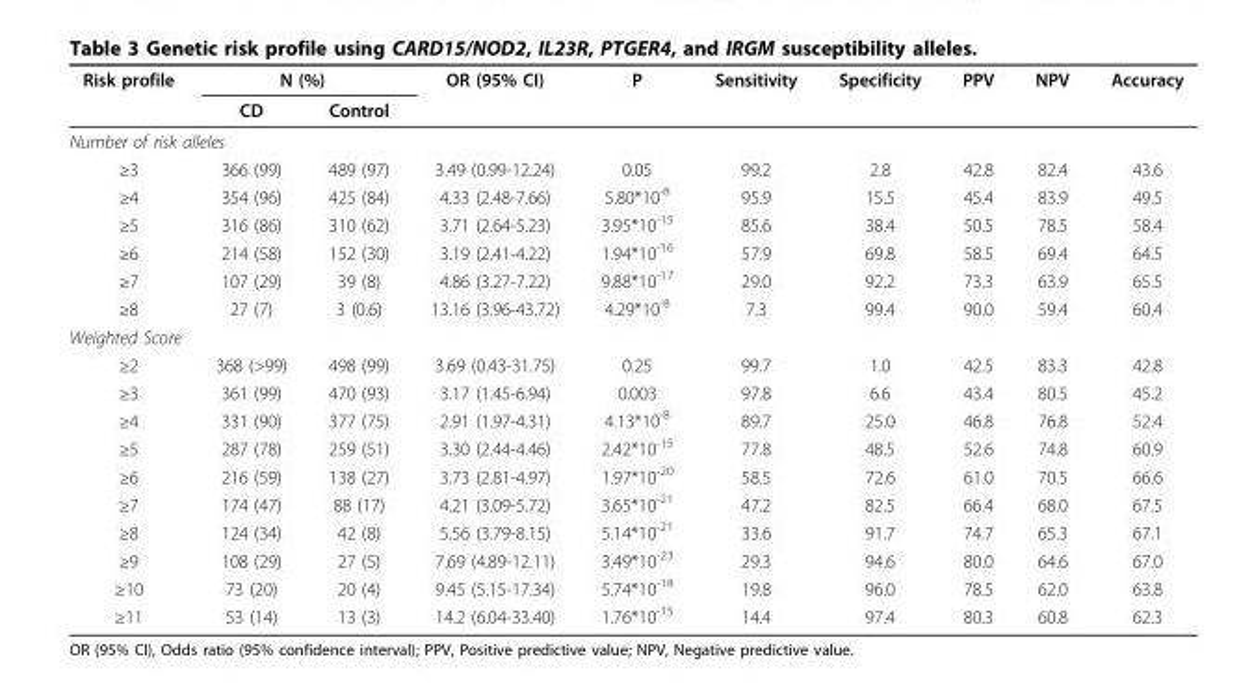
<table><thead><tr><td rowspan="2">Risk profile</td><td colspan="2">N (%)</td><td rowspan="2">OR (95% CI)</td><td rowspan="2">P</td><td rowspan="2">Sensitivity</td><td rowspan="2">Specificity</td><td rowspan="2">PPV</td><td rowspan="2">NPV</td><td rowspan="2">Accuracy</td></tr><tr><td>CD</td><td>Control</td></tr></thead><tbody><tr><td colspan="10">Number of risk alleles</td></tr><tr><td>≥3</td><td>366 (99)</td><td>489 (97)</td><td>3.49 (0.99-12.24)</td><td>0.05</td><td>99.2</td><td>2.8</td><td>42.8</td><td>82.4</td><td>43.6</td></tr><tr><td>≥4</td><td>354 (96)</td><td>425 (84)</td><td>4.33 (2.48-7.66)</td><td>5.80*10<sup>-8</sup></td><td>95.9</td><td>15.5</td><td>45.4</td><td>83.9</td><td>49.5</td></tr><tr><td>≥5</td><td>316 (86)</td><td>310 (62)</td><td>3.71 (2.64-5.23)</td><td>3.95*10<sup>-15</sup></td><td>85.6</td><td>38.4</td><td>50.5</td><td>78.5</td><td>58.4</td></tr><tr><td>≥6</td><td>214 (58)</td><td>152 (30)</td><td>3.19 (2.41-4.22)</td><td>1.94*10<sup>-16</sup></td><td>57.9</td><td>69.8</td><td>58.5</td><td>69.4</td><td>64.5</td></tr><tr><td>≥7</td><td>107 (29)</td><td>39 (8)</td><td>4.86 (3.27-7.22)</td><td>9.88*10<sup>-17</sup></td><td>29.0</td><td>92.2</td><td>73.3</td><td>63.9</td><td>65.5</td></tr><tr><td>≥8</td><td>27 (7)</td><td>3 (0.6)</td><td>13.16 (3.96-43.72)</td><td>4.29*10<sup>-8</sup></td><td>7.3</td><td>99.4</td><td>90.0</td><td>59.4</td><td>60.4</td></tr><tr><td colspan="10">Weighted Score</td></tr><tr><td>≥2</td><td>368 (&gt;99)</td><td>498 (99)</td><td>3.69 (0.43-31.75)</td><td>0.25</td><td>99.7</td><td>1.0</td><td>42.5</td><td>83.3</td><td>42.8</td></tr><tr><td>≥3</td><td>361 (99)</td><td>470 (93)</td><td>3.17 (1.45-6.94)</td><td>0.003</td><td>97.8</td><td>6.6</td><td>43.4</td><td>80.5</td><td>45.2</td></tr><tr><td>≥4</td><td>331 (90)</td><td>377 (75)</td><td>2.91 (1.97-4.31)</td><td>4.13*10<sup>-8</sup></td><td>89.7</td><td>25.0</td><td>46.8</td><td>76.8</td><td>52.4</td></tr><tr><td>≥5</td><td>287 (78)</td><td>259 (51)</td><td>3.30 (2.44-4.46)</td><td>2.42*10<sup>-15</sup></td><td>77.8</td><td>48.5</td><td>52.6</td><td>74.8</td><td>60.9</td></tr><tr><td>≥6</td><td>216 (59)</td><td>138 (27)</td><td>3.73 (2.81-4.97)</td><td>1.97*10<sup>-20</sup></td><td>58.5</td><td>72.6</td><td>61.0</td><td>70.5</td><td>66.6</td></tr><tr><td>≥7</td><td>174 (47)</td><td>88 (17)</td><td>4.21 (3.09-5.72)</td><td>3.65*10<sup>-21</sup></td><td>47.2</td><td>82.5</td><td>66.4</td><td>68.0</td><td>67.5</td></tr><tr><td>≥8</td><td>124 (34)</td><td>42 (8)</td><td>5.56 (3.79-8.15)</td><td>5.14*10<sup>-21</sup></td><td>33.6</td><td>91.7</td><td>74.7</td><td>65.3</td><td>67.1</td></tr><tr><td>≥9</td><td>108 (29)</td><td>27 (5)</td><td>7.69 (4.89-12.11)</td><td>3.49*10<sup>-23</sup></td><td>29.3</td><td>94.6</td><td>80.0</td><td>64.6</td><td>67.0</td></tr><tr><td>≥10</td><td>73 (20)</td><td>20 (4)</td><td>9.45 (5.15-17.34)</td><td>5.74*10<sup>-18</sup></td><td>19.8</td><td>96.0</td><td>78.5</td><td>62.0</td><td>63.8</td></tr><tr><td>≥11</td><td>53 (14)</td><td>13 (3)</td><td>14.2 (6.04-33.40)</td><td>1.76*10<sup>-15</sup></td><td>14.4</td><td>97.4</td><td>80.3</td><td>60.8</td><td>62.3</td></tr></tbody></table>